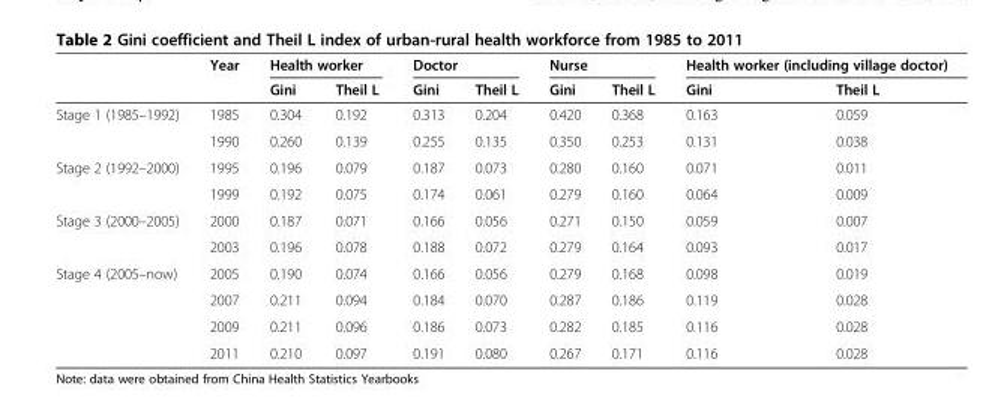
<table><thead><tr><td rowspan="2"></td><td rowspan="2">Year</td><td colspan="2">Health worker</td><td colspan="2">Doctor</td><td colspan="2">Nurse</td><td colspan="2">Health worker (including village doctor)</td></tr><tr><td>Gini</td><td>Theil L</td><td>Gini</td><td>Theil L</td><td>Gini</td><td>Theil L</td><td>Gini</td><td>Theil L</td></tr></thead><tbody><tr><td rowspan="2">Stage 1 (1985–1992)</td><td>1985</td><td>0.304</td><td>0.192</td><td>0.313</td><td>0.204</td><td>0.420</td><td>0.368</td><td>0.163</td><td>0.059</td></tr><tr><td>1990</td><td>0.260</td><td>0.139</td><td>0.255</td><td>0.135</td><td>0.350</td><td>0.253</td><td>0.131</td><td>0.038</td></tr><tr><td rowspan="2">Stage 2 (1992–2000)</td><td>1995</td><td>0.196</td><td>0.079</td><td>0.187</td><td>0.073</td><td>0.280</td><td>0.160</td><td>0.071</td><td>0.011</td></tr><tr><td>1999</td><td>0.192</td><td>0.075</td><td>0.174</td><td>0.061</td><td>0.279</td><td>0.160</td><td>0.064</td><td>0.009</td></tr><tr><td rowspan="2">Stage 3 (2000–2005)</td><td>2000</td><td>0.187</td><td>0.071</td><td>0.166</td><td>0.056</td><td>0.271</td><td>0.150</td><td>0.059</td><td>0.007</td></tr><tr><td>2003</td><td>0.196</td><td>0.078</td><td>0.188</td><td>0.072</td><td>0.279</td><td>0.164</td><td>0.093</td><td>0.017</td></tr><tr><td rowspan="4">Stage 4 (2005–now)</td><td>2005</td><td>0.190</td><td>0.074</td><td>0.166</td><td>0.056</td><td>0.279</td><td>0.168</td><td>0.098</td><td>0.019</td></tr><tr><td>2007</td><td>0.211</td><td>0.094</td><td>0.184</td><td>0.070</td><td>0.287</td><td>0.186</td><td>0.119</td><td>0.028</td></tr><tr><td>2009</td><td>0.211</td><td>0.096</td><td>0.186</td><td>0.073</td><td>0.282</td><td>0.185</td><td>0.116</td><td>0.028</td></tr><tr><td>2011</td><td>0.210</td><td>0.097</td><td>0.191</td><td>0.080</td><td>0.267</td><td>0.171</td><td>0.116</td><td>0.028</td></tr></tbody></table>